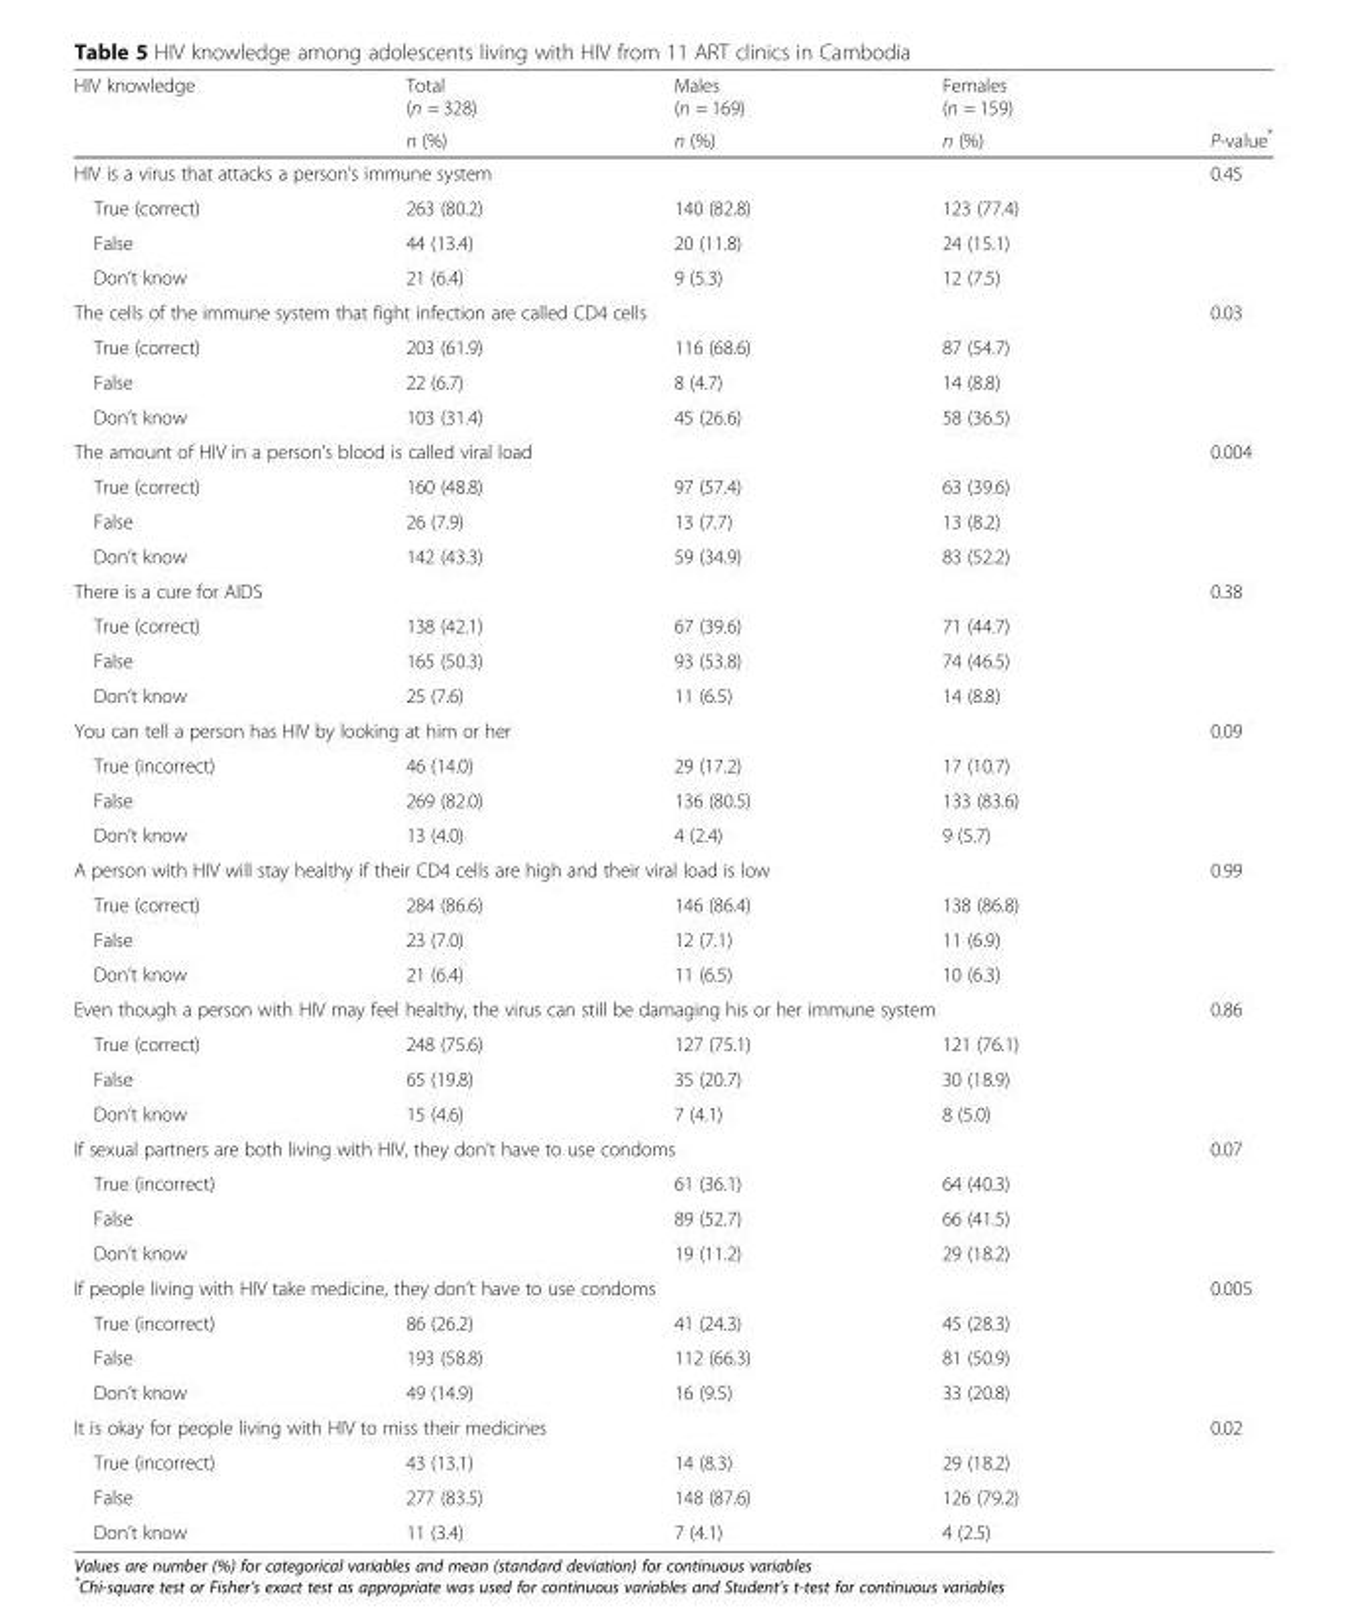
<table><thead><tr><td rowspan="2">HIV knowledge</td><td rowspan="2">Total (n = 328) n (%)</td><td rowspan="2">Males (n = 169) n (%)</td><td rowspan="2">Females (n = 159) n (%)</td><td rowspan="2">P-value*</td></tr><tr></tr></thead><tbody><tr><td colspan="4">HIV is a virus that attacks a person’s immune system</td><td>0.45</td></tr><tr><td>True (correct)</td><td>263 (80.2)</td><td>140 (82.8)</td><td>123 (77.4)</td><td></td></tr><tr><td>False</td><td>44 (13.4)</td><td>20 (11.8)</td><td>24 (15.1)</td><td></td></tr><tr><td>Don’t know</td><td>21 (6.4)</td><td>9 (5.3)</td><td>12 (7.5)</td><td></td></tr><tr><td colspan="4">The cells of the immune system that fight infection are called CD4 cells</td><td>0.03</td></tr><tr><td>True (correct)</td><td>203 (61.9)</td><td>116 (68.6)</td><td>87 (54.7)</td><td></td></tr><tr><td>False</td><td>22 (6.7)</td><td>8 (4.7)</td><td>14 (8.8)</td><td></td></tr><tr><td>Don’t know</td><td>103 (31.4)</td><td>45 (26.6)</td><td>58 (36.5)</td><td></td></tr><tr><td colspan="4">The amount of HIV in a person’s blood is called viral load</td><td>0.004</td></tr><tr><td>True (correct)</td><td>160 (48.8)</td><td>97 (57.4)</td><td>63 (39.6)</td><td></td></tr><tr><td>False</td><td>26 (7.9)</td><td>13 (7.7)</td><td>13 (8.2)</td><td></td></tr><tr><td>Don’t know</td><td>142 (43.3)</td><td>59 (34.9)</td><td>83 (52.2)</td><td></td></tr><tr><td colspan="4">There is a cure for AIDS</td><td>0.38</td></tr><tr><td>True (correct)</td><td>138 (42.1)</td><td>67 (39.6)</td><td>71 (44.7)</td><td></td></tr><tr><td>False</td><td>165 (50.3)</td><td>93 (53.8)</td><td>74 (46.5)</td><td></td></tr><tr><td>Don’t know</td><td>25 (7.6)</td><td>11 (6.5)</td><td>14 (8.8)</td><td></td></tr><tr><td colspan="4">You can tell a person has HIV by looking at him or her</td><td>0.09</td></tr><tr><td>True (incorrect)</td><td>46 (14.0)</td><td>29 (17.2)</td><td>17 (10.7)</td><td></td></tr><tr><td>False</td><td>269 (82.0)</td><td>136 (80.5)</td><td>133 (83.6)</td><td></td></tr><tr><td>Don’t know</td><td>13 (4.0)</td><td>4 (2.4)</td><td>9 (5.7)</td><td></td></tr><tr><td colspan="4">A person with HIV will stay healthy if their CD4 cells are high and their viral load is low</td><td>0.99</td></tr><tr><td>True (correct)</td><td>284 (86.6)</td><td>146 (86.4)</td><td>138 (86.8)</td><td></td></tr><tr><td>False</td><td>23 (7.0)</td><td>12 (7.1)</td><td>11 (6.9)</td><td></td></tr><tr><td>Don’t know</td><td>21 (6.4)</td><td>11 (6.5)</td><td>10 (6.3)</td><td></td></tr><tr><td colspan="4">Even though a person with HIV may feel healthy, the virus can still be damaging his or her immune system</td><td>0.86</td></tr><tr><td>True (correct)</td><td>248 (75.6)</td><td>127 (75.1)</td><td>121 (76.1)</td><td></td></tr><tr><td>False</td><td>65 (19.8)</td><td>35 (20.7)</td><td>30 (18.9)</td><td></td></tr><tr><td>Don’t know</td><td>15 (4.6)</td><td>7 (4.1)</td><td>8 (5.0)</td><td></td></tr><tr><td colspan="4">If sexual partners are both living with HIV, they don’t have to use condoms</td><td>0.07</td></tr><tr><td>True (incorrect)</td><td></td><td>61 (36.1)</td><td>64 (40.3)</td><td></td></tr><tr><td>False</td><td></td><td>89 (52.7)</td><td>66 (41.5)</td><td></td></tr><tr><td>Don’t know</td><td></td><td>19 (11.2)</td><td>29 (18.2)</td><td></td></tr><tr><td colspan="4">If people living with HIV take medicine, they don’t have to use condoms</td><td>0.005</td></tr><tr><td>True (incorrect)</td><td>86 (26.2)</td><td>41 (24.3)</td><td>45 (28.3)</td><td></td></tr><tr><td>False</td><td>193 (58.8)</td><td>112 (66.3)</td><td>81 (50.9)</td><td></td></tr><tr><td>Don’t know</td><td>49 (14.9)</td><td>16 (9.5)</td><td>33 (20.8)</td><td></td></tr><tr><td colspan="4">It is okay for people living with HIV to miss their medicines</td><td>0.02</td></tr><tr><td>True (incorrect)</td><td>43 (13.1)</td><td>14 (8.3)</td><td>29 (18.2)</td><td></td></tr><tr><td>False</td><td>277 (83.5)</td><td>148 (87.6)</td><td>126 (79.2)</td><td></td></tr><tr><td>Don’t know</td><td>11 (3.4)</td><td>7 (4.1)</td><td>4 (2.5)</td><td></td></tr></tbody></table>